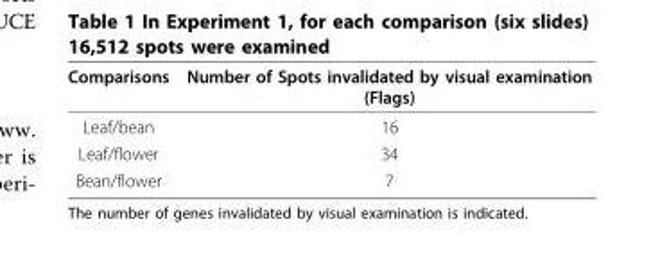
<table><thead><tr><td>Comparisons</td><td>Number of Spots invalidated by visual examination (Flags)</td></tr></thead><tbody><tr><td>Leaf/bean</td><td>16</td></tr><tr><td>Leaf/flower</td><td>34</td></tr><tr><td>Bean/flower</td><td>7</td></tr></tbody></table>